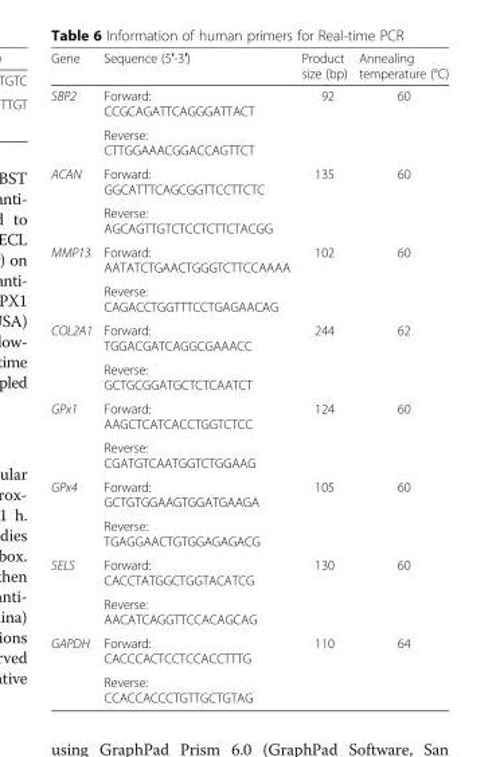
<table><thead><tr><td>Gene</td><td>Sequence (5′-3′)</td><td>Product size (bp)</td><td>Annealing temperature (°C)</td></tr></thead><tbody><tr><td rowspan="2">SBP2</td><td>Forward: CCGCAGATTCAGGGATTACT</td><td rowspan="2">92</td><td rowspan="2">60</td></tr><tr><td>Reverse: CTTGGAAACGGACCAGTTCT</td></tr><tr><td rowspan="2">ACAN</td><td>Forward: GGCATTTCAGCGGTTCCTTCTC</td><td rowspan="2">135</td><td rowspan="2">60</td></tr><tr><td>Reverse: AGCAGTTGTCTCCTCTTCTACGG</td></tr><tr><td rowspan="2">MMP13</td><td>Forward: AATATCTGAACTGGGTCTTCCAAAA</td><td rowspan="2">102</td><td rowspan="2">60</td></tr><tr><td>Reverse: CAGACCTGGTTTCCTGAGAACAG</td></tr><tr><td rowspan="2">COL2A1</td><td>Forward: TGGACGATCAGGCGAAACC</td><td rowspan="2">244</td><td rowspan="2">62</td></tr><tr><td>Reverse: GCTGCGGATGCTCTCAATCT</td></tr><tr><td rowspan="2">GPx1</td><td>Forward: AAGCTCATCACCTGGTCTCC</td><td rowspan="2">124</td><td rowspan="2">60</td></tr><tr><td>Reverse: CGATGTCAATGGTCTGGAAG</td></tr><tr><td rowspan="2">GPx4</td><td>Forward: GCTGTGGAAGTGGATGAAGA</td><td rowspan="2">105</td><td rowspan="2">60</td></tr><tr><td>Reverse: TGAGGAACTGTGGAGAGACG</td></tr><tr><td rowspan="2">SELS</td><td>Forward: CACCTATGGCTGGTACATCG</td><td rowspan="2">130</td><td rowspan="2">60</td></tr><tr><td>Reverse: AACATCAGGTTCCACAGCAG</td></tr><tr><td rowspan="2">GAPDH</td><td>Forward: CACCCACTCCTCCACCTTTG</td><td rowspan="2">110</td><td rowspan="2">64</td></tr><tr><td>Reverse: CCACCACCCTGTTGCTGTAG</td></tr></tbody></table>